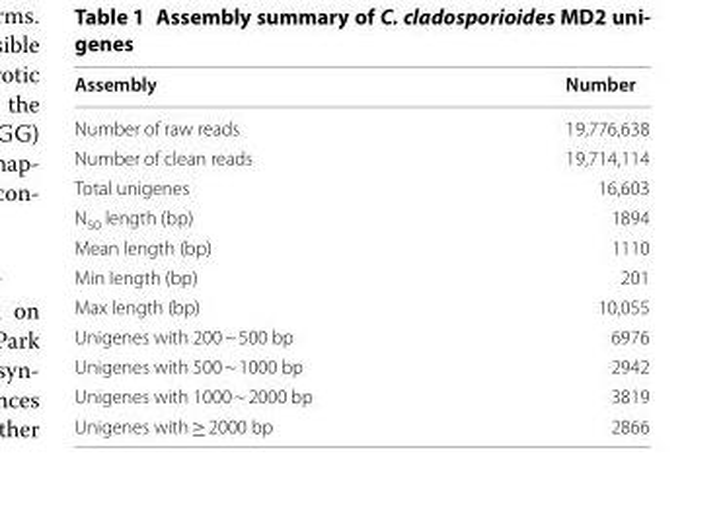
<table><thead><tr><td>Assembly</td><td>Number</td></tr></thead><tbody><tr><td>Number of raw reads</td><td>19,776,638</td></tr><tr><td>Number of clean reads</td><td>19,714,114</td></tr><tr><td>Total unigenes</td><td>16,603</td></tr><tr><td>N<sub>50</sub> length (bp)</td><td>1894</td></tr><tr><td>Mean length (bp)</td><td>1110</td></tr><tr><td>Min length (bp)</td><td>201</td></tr><tr><td>Max length (bp)</td><td>10,055</td></tr><tr><td>Unigenes with 200 ~ 500 bp</td><td>6976</td></tr><tr><td>Unigenes with 500 ~ 1000 bp</td><td>2942</td></tr><tr><td>Unigenes with 1000 ~ 2000 bp</td><td>3819</td></tr><tr><td>Unigenes with ≥ 2000 bp</td><td>2866</td></tr></tbody></table>